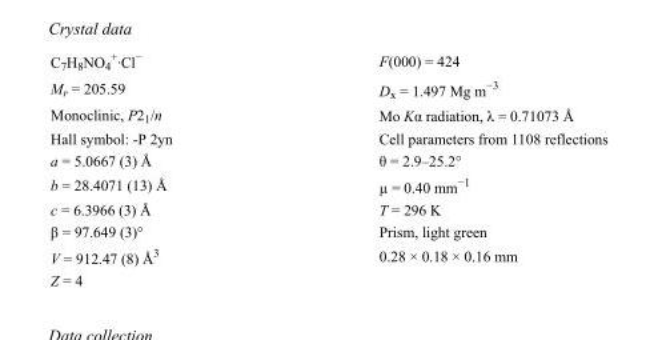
<table><tbody><tr><td>C<sub>7</sub>H<sub>8</sub>NO<sub>4</sub> <sup>+</sup>·Cl<sup>−</sup></td><td>F(000) = 424</td></tr><tr><td>M<sub>r</sub> = 205.59</td><td>D<sub>x</sub> = 1.497 Mg m<sup>−3</sup></td></tr><tr><td>Monoclinic, P2<sub>1</sub>/n</td><td>Mo Kα radiation, λ = 0.71073 Å</td></tr><tr><td>Hall symbol: -P 2yn</td><td>Cell parameters from 1108 reflections</td></tr><tr><td>a = 5.0667 (3) Å</td><td>θ = 2.9–25.2°</td></tr><tr><td>b = 28.4071 (13) Å</td><td>µ = 0.40 mm<sup>−1</sup></td></tr><tr><td>c = 6.3966 (3) Å</td><td>T = 296 K</td></tr><tr><td>β = 97.649 (3)°</td><td>Prism, light green</td></tr><tr><td>V = 912.47 (8) Å<sup>3</sup></td><td>0.28 × 0.18 × 0.16 mm</td></tr><tr><td>Z = 4</td><td></td></tr></tbody></table>